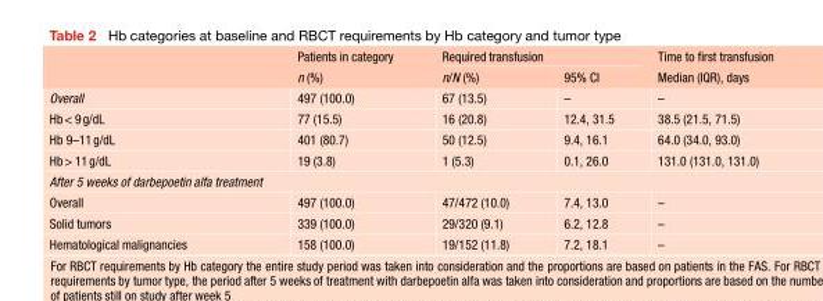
<table><thead><tr><td rowspan="2"></td><td rowspan="2">Patients in category n (%)</td><td colspan="2">Required transfusion</td><td rowspan="2">Time to first transfusion Median (IQR), days</td></tr><tr><td>n/N (%)</td><td>95% CI</td></tr></thead><tbody><tr><td>Overall</td><td>497 (100.0)</td><td>67 (13.5)</td><td>–</td><td>–</td></tr><tr><td>Hb&lt; 9g/dL</td><td>77 (15.5)</td><td>16 (20.8)</td><td>12.4, 31.5</td><td>38.5 (21.5, 71.5)</td></tr><tr><td>Hb 9–11g/dL</td><td>401 (80.7)</td><td>50 (12.5)</td><td>9.4, 16.1</td><td>64.0 (34.0, 93.0)</td></tr><tr><td>Hb&gt; 11g/dL</td><td>19 (3.8)</td><td>1 (5.3)</td><td>0.1, 26.0</td><td>131.0 (131.0, 131.0)</td></tr><tr><td colspan="5">After 5 weeks of darbepoetin alfa treatment</td></tr><tr><td>Overall</td><td>497 (100.0)</td><td>47/472 (10.0)</td><td>7.4, 13.0</td><td>–</td></tr><tr><td>Solid tumors</td><td>339 (100.0)</td><td>29/320 (9.1)</td><td>6.2, 12.8</td><td>–</td></tr><tr><td>Hematological malignancies</td><td>158 (100.0)</td><td>19/152 (11.8)</td><td>7.2, 18.1</td><td>–</td></tr></tbody></table>